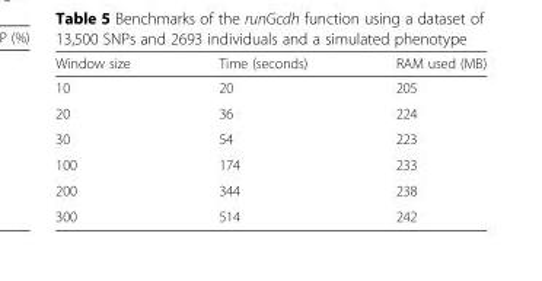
<table><thead><tr><td>Window size</td><td>Time (seconds)</td><td>RAM used (MB)</td></tr></thead><tbody><tr><td>10</td><td>20</td><td>205</td></tr><tr><td>20</td><td>36</td><td>224</td></tr><tr><td>30</td><td>54</td><td>223</td></tr><tr><td>100</td><td>174</td><td>233</td></tr><tr><td>200</td><td>344</td><td>238</td></tr><tr><td>300</td><td>514</td><td>242</td></tr></tbody></table>